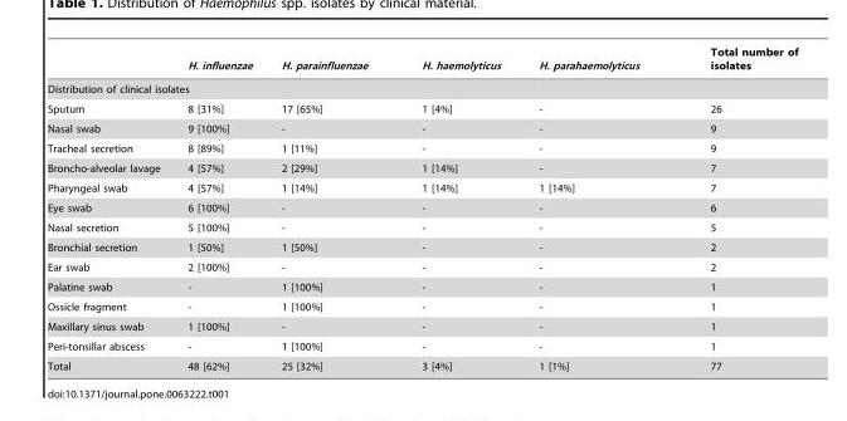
<table><thead><tr><td></td><td>H. influenzae</td><td>H. parainfluenzae</td><td>H. haemolyticus</td><td>H. parahaemolyticus</td><td>Total number of isolates</td></tr></thead><tbody><tr><td colspan="6">Distribution of clinical isolates</td></tr><tr><td>Sputum</td><td>8 [31%]</td><td>17 [65%]</td><td>1 [4%]</td><td>-</td><td>26</td></tr><tr><td>Nasal swab</td><td>9 [100%]</td><td>-</td><td>-</td><td>-</td><td>9</td></tr><tr><td>Tracheal secretion</td><td>8 [89%]</td><td>1 [11%]</td><td>-</td><td>-</td><td>9</td></tr><tr><td>Broncho-alveolar lavage</td><td>4 [57%]</td><td>2 [29%]</td><td>1 [14%]</td><td>-</td><td>7</td></tr><tr><td>Pharyngeal swab</td><td>4 [57%]</td><td>1 [14%]</td><td>1 [14%]</td><td>1 [14%]</td><td>7</td></tr><tr><td>Eye swab</td><td>6 [100%]</td><td>-</td><td>-</td><td>-</td><td>6</td></tr><tr><td>Nasal secretion</td><td>5 [100%]</td><td>-</td><td>-</td><td>-</td><td>5</td></tr><tr><td>Bronchial secretion</td><td>1 [50%]</td><td>1 [50%]</td><td>-</td><td>-</td><td>2</td></tr><tr><td>Ear swab</td><td>2 [100%]</td><td>-</td><td>-</td><td>-</td><td>2</td></tr><tr><td>Palatine swab</td><td>-</td><td>1 [100%]</td><td>-</td><td>-</td><td>1</td></tr><tr><td>Ossicle fragment</td><td>-</td><td>1 [100%]</td><td>-</td><td>-</td><td>1</td></tr><tr><td>Maxillary sinus swab</td><td>1 [100%]</td><td>-</td><td>-</td><td>-</td><td>1</td></tr><tr><td>Peri-tonsillar abscess</td><td>-</td><td>1 [100%]</td><td>-</td><td>-</td><td>1</td></tr><tr><td>Total</td><td>48 [62%]</td><td>25 [32%]</td><td>3 [4%]</td><td>1 [1%]</td><td>77</td></tr></tbody></table>